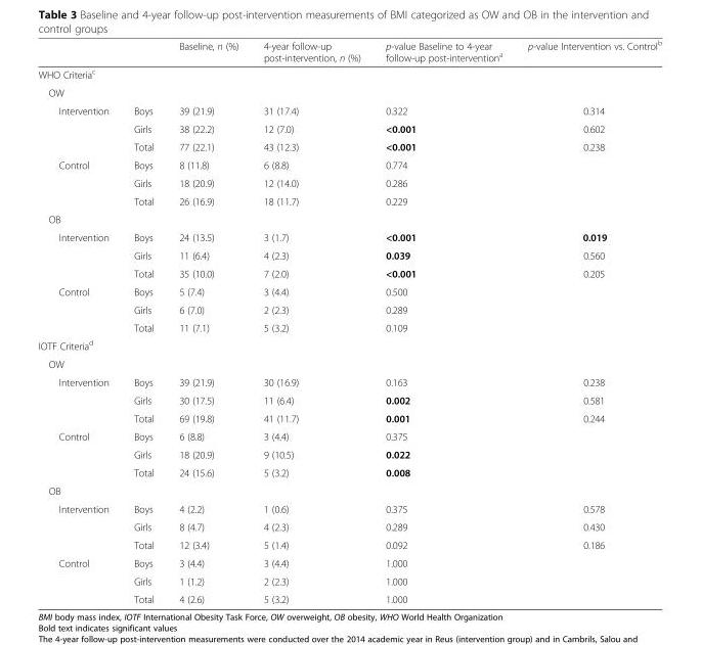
<table><thead><tr><td></td><td></td><td>Baseline, n (%)</td><td>4-year follow-up post-intervention, n (%)</td><td>p-value Baseline to 4-year follow-up post-intervention<sup>a</sup></td><td>p-value Intervention vs. Control<sup>b</sup></td></tr></thead><tbody><tr><td colspan="6">WHO Criteria<sup>c</sup></td></tr><tr><td colspan="6">OW</td></tr><tr><td rowspan="3">Intervention</td><td>Boys</td><td>39 (21.9)</td><td>31 (17.4)</td><td>0.322</td><td>0.314</td></tr><tr><td>Girls</td><td>38 (22.2)</td><td>12 (7.0)</td><td>&lt;0.001</td><td>0.602</td></tr><tr><td>Total</td><td>77 (22.1)</td><td>43 (12.3)</td><td>&lt;0.001</td><td>0.238</td></tr><tr><td rowspan="3">Control</td><td>Boys</td><td>8 (11.8)</td><td>6 (8.8)</td><td>0.774</td><td></td></tr><tr><td>Girls</td><td>18 (20.9)</td><td>12 (14.0)</td><td>0.286</td><td></td></tr><tr><td>Total</td><td>26 (16.9)</td><td>18 (11.7)</td><td>0.229</td><td></td></tr><tr><td colspan="6">OB</td></tr><tr><td rowspan="3">Intervention</td><td>Boys</td><td>24 (13.5)</td><td>3 (1.7)</td><td>&lt;0.001</td><td>0.019</td></tr><tr><td>Girls</td><td>11 (6.4)</td><td>4 (2.3)</td><td>0.039</td><td>0.560</td></tr><tr><td>Total</td><td>35 (10.0)</td><td>7 (2.0)</td><td>&lt;0.001</td><td>0.205</td></tr><tr><td rowspan="3">Control</td><td>Boys</td><td>5 (7.4)</td><td>3 (4.4)</td><td>0.500</td><td></td></tr><tr><td>Girls</td><td>6 (7.0)</td><td>2 (2.3)</td><td>0.289</td><td></td></tr><tr><td>Total</td><td>11 (7.1)</td><td>5 (3.2)</td><td>0.109</td><td></td></tr><tr><td colspan="6">IOTF Criteria<sup>d</sup></td></tr><tr><td colspan="6">OW</td></tr><tr><td rowspan="3">Intervention</td><td>Boys</td><td>39 (21.9)</td><td>30 (16.9)</td><td>0.163</td><td>0.238</td></tr><tr><td>Girls</td><td>30 (17.5)</td><td>11 (6.4)</td><td>0.002</td><td>0.581</td></tr><tr><td>Total</td><td>69 (19.8)</td><td>41 (11.7)</td><td>0.001</td><td>0.244</td></tr><tr><td rowspan="3">Control</td><td>Boys</td><td>6 (8.8)</td><td>3 (4.4)</td><td>0.375</td><td></td></tr><tr><td>Girls</td><td>18 (20.9)</td><td>9 (10.5)</td><td>0.022</td><td></td></tr><tr><td>Total</td><td>24 (15.6)</td><td>5 (3.2)</td><td>0.008</td><td></td></tr><tr><td colspan="6">OB</td></tr><tr><td rowspan="3">Intervention</td><td>Boys</td><td>4 (2.2)</td><td>1 (0.6)</td><td>0.375</td><td>0.578</td></tr><tr><td>Girls</td><td>8 (4.7)</td><td>4 (2.3)</td><td>0.289</td><td>0.430</td></tr><tr><td>Total</td><td>12 (3.4)</td><td>5 (1.4)</td><td>0.092</td><td>0.186</td></tr><tr><td rowspan="3">Control</td><td>Boys</td><td>3 (4.4)</td><td>3 (4.4)</td><td>1.000</td><td></td></tr><tr><td>Girls</td><td>1 (1.2)</td><td>2 (2.3)</td><td>1.000</td><td></td></tr><tr><td>Total</td><td>4 (2.6)</td><td>5 (3.2)</td><td>1.000</td><td></td></tr></tbody></table>